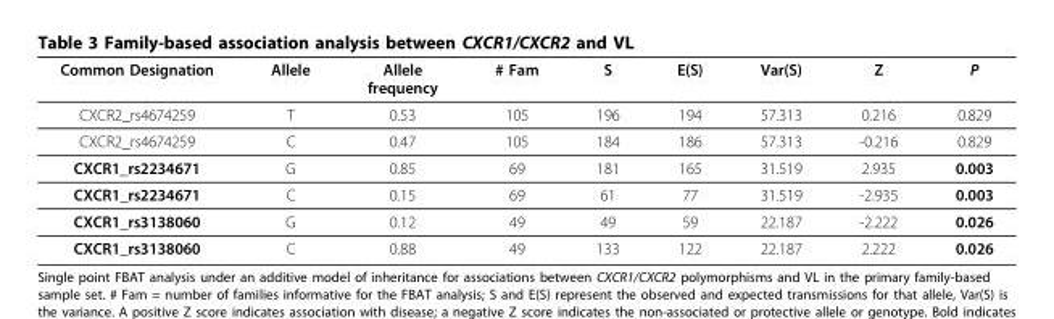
<table><thead><tr><td>Common Designation</td><td>Allele</td><td>Allele frequency</td><td># Fam</td><td>S</td><td>E(S)</td><td>Var(S)</td><td>Z</td><td>P</td></tr></thead><tbody><tr><td>CXCR2_rs4674259</td><td>T</td><td>0.53</td><td>105</td><td>196</td><td>194</td><td>57.313</td><td>0.216</td><td>0.829</td></tr><tr><td>CXCR2_rs4674259</td><td>C</td><td>0.47</td><td>105</td><td>184</td><td>186</td><td>57.313</td><td>-0.216</td><td>0.829</td></tr><tr><td>CXCR1_rs2234671</td><td>G</td><td>0.85</td><td>69</td><td>181</td><td>165</td><td>31.519</td><td>2.935</td><td>0.003</td></tr><tr><td>CXCR1_rs2234671</td><td>C</td><td>0.15</td><td>69</td><td>61</td><td>77</td><td>31.519</td><td>-2.935</td><td>0.003</td></tr><tr><td>CXCR1_rs3138060</td><td>G</td><td>0.12</td><td>49</td><td>49</td><td>59</td><td>22.187</td><td>-2.222</td><td>0.026</td></tr><tr><td>CXCR1_rs3138060</td><td>C</td><td>0.88</td><td>49</td><td>133</td><td>122</td><td>22.187</td><td>2.222</td><td>0.026</td></tr></tbody></table>